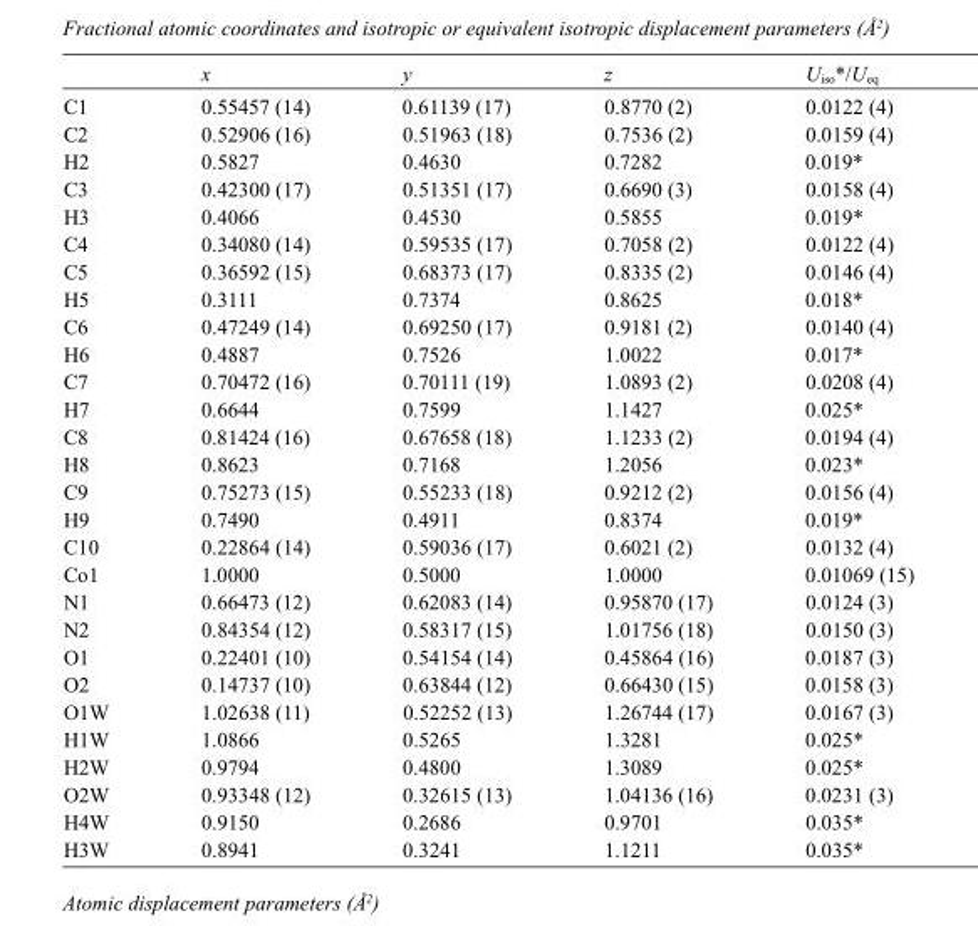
<table><thead><tr><td></td><td>x</td><td>y</td><td>z</td><td>U<sub>iso</sub>*/U<sub>eq</sub></td></tr></thead><tbody><tr><td>C1</td><td>0.55457 (14)</td><td>0.61139 (17)</td><td>0.8770 (2)</td><td>0.0122 (4)</td></tr><tr><td>C2</td><td>0.52906 (16)</td><td>0.51963 (18)</td><td>0.7536 (2)</td><td>0.0159 (4)</td></tr><tr><td>H2</td><td>0.5827</td><td>0.4630</td><td>0.7282</td><td>0.019*</td></tr><tr><td>C3</td><td>0.42300 (17)</td><td>0.51351 (17)</td><td>0.6690 (3)</td><td>0.0158 (4)</td></tr><tr><td>H3</td><td>0.4066</td><td>0.4530</td><td>0.5855</td><td>0.019*</td></tr><tr><td>C4</td><td>0.34080 (14)</td><td>0.59535 (17)</td><td>0.7058 (2)</td><td>0.0122 (4)</td></tr><tr><td>C5</td><td>0.36592 (15)</td><td>0.68373 (17)</td><td>0.8335 (2)</td><td>0.0146 (4)</td></tr><tr><td>H5</td><td>0.3111</td><td>0.7374</td><td>0.8625</td><td>0.018*</td></tr><tr><td>C6</td><td>0.47249 (14)</td><td>0.69250 (17)</td><td>0.9181 (2)</td><td>0.0140 (4)</td></tr><tr><td>H6</td><td>0.4887</td><td>0.7526</td><td>1.0022</td><td>0.017*</td></tr><tr><td>C7</td><td>0.70472 (16)</td><td>0.70111 (19)</td><td>1.0893 (2)</td><td>0.0208 (4)</td></tr><tr><td>H7</td><td>0.6644</td><td>0.7599</td><td>1.1427</td><td>0.025*</td></tr><tr><td>C8</td><td>0.81424 (16)</td><td>0.67658 (18)</td><td>1.1233 (2)</td><td>0.0194 (4)</td></tr><tr><td>H8</td><td>0.8623</td><td>0.7168</td><td>1.2056</td><td>0.023*</td></tr><tr><td>C9</td><td>0.75273 (15)</td><td>0.55233 (18)</td><td>0.9212 (2)</td><td>0.0156 (4)</td></tr><tr><td>H9</td><td>0.7490</td><td>0.4911</td><td>0.8374</td><td>0.019*</td></tr><tr><td>C10</td><td>0.22864 (14)</td><td>0.59036 (17)</td><td>0.6021 (2)</td><td>0.0132 (4)</td></tr><tr><td>Co1</td><td>1.0000</td><td>0.5000</td><td>1.0000</td><td>0.01069 (15)</td></tr><tr><td>N1</td><td>0.66473 (12)</td><td>0.62083 (14)</td><td>0.95870 (17)</td><td>0.0124 (3)</td></tr><tr><td>N2</td><td>0.84354 (12)</td><td>0.58317 (15)</td><td>1.01756 (18)</td><td>0.0150 (3)</td></tr><tr><td>O1</td><td>0.22401 (10)</td><td>0.54154 (14)</td><td>0.45864 (16)</td><td>0.0187 (3)</td></tr><tr><td>O2</td><td>0.14737 (10)</td><td>0.63844 (12)</td><td>0.66430 (15)</td><td>0.0158 (3)</td></tr><tr><td>O1W</td><td>1.02638 (11)</td><td>0.52252 (13)</td><td>1.26744 (17)</td><td>0.0167 (3)</td></tr><tr><td>H1W</td><td>1.0866</td><td>0.5265</td><td>1.3281</td><td>0.025*</td></tr><tr><td>H2W</td><td>0.9794</td><td>0.4800</td><td>1.3089</td><td>0.025*</td></tr><tr><td>O2W</td><td>0.93348 (12)</td><td>0.32615 (13)</td><td>1.04136 (16)</td><td>0.0231 (3)</td></tr><tr><td>H4W</td><td>0.9150</td><td>0.2686</td><td>0.9701</td><td>0.035*</td></tr><tr><td>H3W</td><td>0.8941</td><td>0.3241</td><td>1.1211</td><td>0.035*</td></tr></tbody></table>